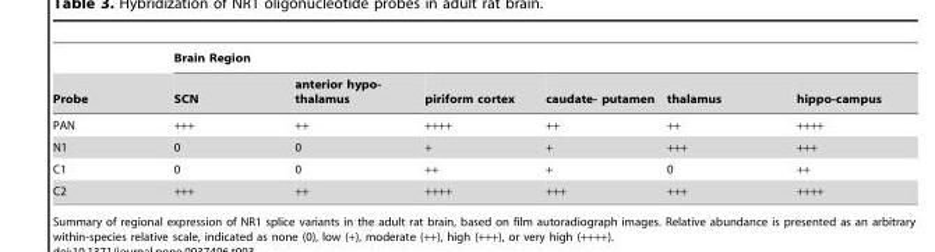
<table><thead><tr><td rowspan="2">Probe</td><td colspan="6">Brain Region</td></tr><tr><td>SCN</td><td>anterior hypo- thalamus</td><td>piriform cortex</td><td>caudate- putamen</td><td>thalamus</td><td>hippo-campus</td></tr></thead><tbody><tr><td>PAN</td><td>+++</td><td>++</td><td>++++</td><td>++</td><td>++</td><td>++++</td></tr><tr><td>N1</td><td>0</td><td>0</td><td>+</td><td>+</td><td>+++</td><td>+++</td></tr><tr><td>C1</td><td>0</td><td>0</td><td>++</td><td>+</td><td>0</td><td>++</td></tr><tr><td>C2</td><td>+++</td><td>++</td><td>++++</td><td>+++</td><td>+++</td><td>++++</td></tr></tbody></table>